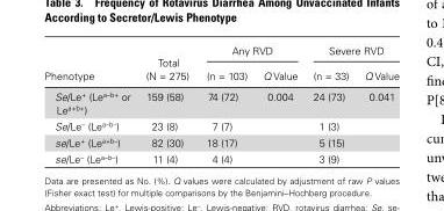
<table><thead><tr><td rowspan="2">Phenotype</td><td rowspan="2">Total (N = 275)</td><td colspan="2">Any RVD</td><td colspan="2">Severe RVD</td></tr><tr><td>(n = 103)</td><td>Q Value</td><td>(n = 33)</td><td>Q Value</td></tr></thead><tbody><tr><td>Se/Le<sup>+</sup> (Le<sup>a–b+</sup> or Le<sup>a+b+</sup>)</td><td>159 (58)</td><td>74 (72)</td><td>0.004</td><td>24 (73)</td><td>0.041</td></tr><tr><td>Se/Le<sup>–</sup> (Le<sup>a–b–</sup>)</td><td>23 (8)</td><td>7 (7)</td><td></td><td>1 (3)</td><td></td></tr><tr><td>se/Le<sup>+</sup> (Le<sup>a+b–</sup>)</td><td>82 (30)</td><td>18 (17)</td><td></td><td>5 (15)</td><td></td></tr><tr><td>se/Le<sup>–</sup> (Le<sup>a–b–</sup>)</td><td>11 (4)</td><td>4 (4)</td><td></td><td>3 (9)</td><td></td></tr></tbody></table>